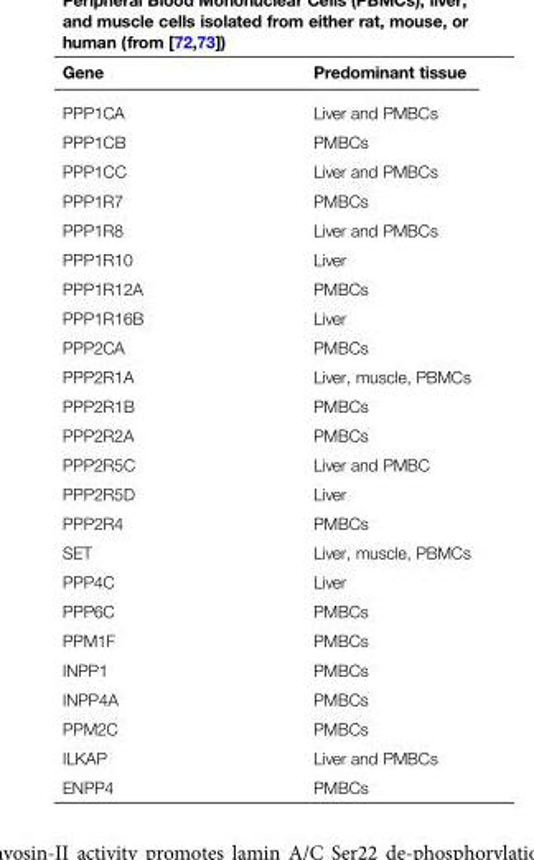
<table><thead><tr><td>Gene</td><td>Predominant tissue</td></tr></thead><tbody><tr><td>PPP1CA</td><td>Liver and PMBCs</td></tr><tr><td>PPP1CB</td><td>PMBCs</td></tr><tr><td>PPP1CC</td><td>Liver and PMBCs</td></tr><tr><td>PPP1R7</td><td>PMBCs</td></tr><tr><td>PPP1R8</td><td>Liver and PMBCs</td></tr><tr><td>PPP1R10</td><td>Liver</td></tr><tr><td>PPP1R12A</td><td>PMBCs</td></tr><tr><td>PPP1R16B</td><td>Liver</td></tr><tr><td>PPP2CA</td><td>PMBCs</td></tr><tr><td>PPP2R1A</td><td>Liver, muscle, PBMCs</td></tr><tr><td>PPP2R1B</td><td>PMBCs</td></tr><tr><td>PPP2R2A</td><td>PMBCs</td></tr><tr><td>PPP2R5C</td><td>Liver and PMBC</td></tr><tr><td>PPP2R5D</td><td>Liver</td></tr><tr><td>PPP2R4</td><td>PMBCs</td></tr><tr><td>SET</td><td>Liver, muscle, PBMCs</td></tr><tr><td>PPP4C</td><td>Liver</td></tr><tr><td>PPP6C</td><td>PMBCs</td></tr><tr><td>PPM1F</td><td>PMBCs</td></tr><tr><td>INPP1</td><td>PMBCs</td></tr><tr><td>INPP4A</td><td>PMBCs</td></tr><tr><td>PPM2C</td><td>PMBCs</td></tr><tr><td>ILKAP</td><td>Liver and PMBCs</td></tr><tr><td>ENPP4</td><td>PMBCs</td></tr></tbody></table>